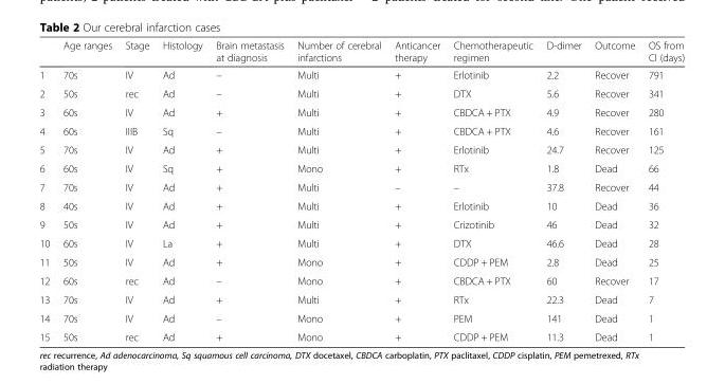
<table><thead><tr><td></td><td>Age ranges</td><td>Stage</td><td>Histology</td><td>Brain metastasis at diagnosis</td><td>Number of cerebral infarctions</td><td>Anticancer therapy</td><td>Chemotherapeutic regimen</td><td>D-dimer</td><td>Outcome</td><td>OS from CI (days)</td></tr></thead><tbody><tr><td>1</td><td>70s</td><td>IV</td><td>Ad</td><td>–</td><td>Multi</td><td>+</td><td>Erlotinib</td><td>2.2</td><td>Recover</td><td>791</td></tr><tr><td>2</td><td>50s</td><td>rec</td><td>Ad</td><td>–</td><td>Multi</td><td>+</td><td>DTX</td><td>5.6</td><td>Recover</td><td>341</td></tr><tr><td>3</td><td>60s</td><td>IV</td><td>Ad</td><td>+</td><td>Multi</td><td>+</td><td>CBDCA + PTX</td><td>4.9</td><td>Recover</td><td>280</td></tr><tr><td>4</td><td>60s</td><td>IIIB</td><td>Sq</td><td>–</td><td>Multi</td><td>+</td><td>CBDCA + PTX</td><td>4.6</td><td>Recover</td><td>161</td></tr><tr><td>5</td><td>70s</td><td>IV</td><td>Ad</td><td>+</td><td>Multi</td><td>+</td><td>Erlotinib</td><td>24.7</td><td>Recover</td><td>125</td></tr><tr><td>6</td><td>60s</td><td>IV</td><td>Sq</td><td>+</td><td>Mono</td><td>+</td><td>RTx</td><td>1.8</td><td>Dead</td><td>66</td></tr><tr><td>7</td><td>70s</td><td>IV</td><td>Ad</td><td>+</td><td>Multi</td><td>–</td><td>–</td><td>37.8</td><td>Recover</td><td>44</td></tr><tr><td>8</td><td>40s</td><td>IV</td><td>Ad</td><td>+</td><td>Multi</td><td>+</td><td>Erlotinib</td><td>10</td><td>Dead</td><td>36</td></tr><tr><td>9</td><td>50s</td><td>IV</td><td>Ad</td><td>+</td><td>Multi</td><td>+</td><td>Crizotinib</td><td>46</td><td>Dead</td><td>32</td></tr><tr><td>10</td><td>60s</td><td>IV</td><td>La</td><td>+</td><td>Multi</td><td>+</td><td>DTX</td><td>46.6</td><td>Dead</td><td>28</td></tr><tr><td>11</td><td>50s</td><td>IV</td><td>Ad</td><td>+</td><td>Mono</td><td>+</td><td>CDDP + PEM</td><td>2.8</td><td>Dead</td><td>25</td></tr><tr><td>12</td><td>60s</td><td>rec</td><td>Ad</td><td>–</td><td>Mono</td><td>+</td><td>CBDCA + PTX</td><td>60</td><td>Recover</td><td>17</td></tr><tr><td>13</td><td>70s</td><td>IV</td><td>Ad</td><td>+</td><td>Multi</td><td>+</td><td>RTx</td><td>22.3</td><td>Dead</td><td>7</td></tr><tr><td>14</td><td>70s</td><td>IV</td><td>Ad</td><td>–</td><td>Mono</td><td>+</td><td>PEM</td><td>141</td><td>Dead</td><td>1</td></tr><tr><td>15</td><td>50s</td><td>rec</td><td>Ad</td><td>+</td><td>Mono</td><td>+</td><td>CDDP + PEM</td><td>11.3</td><td>Dead</td><td>1</td></tr></tbody></table>